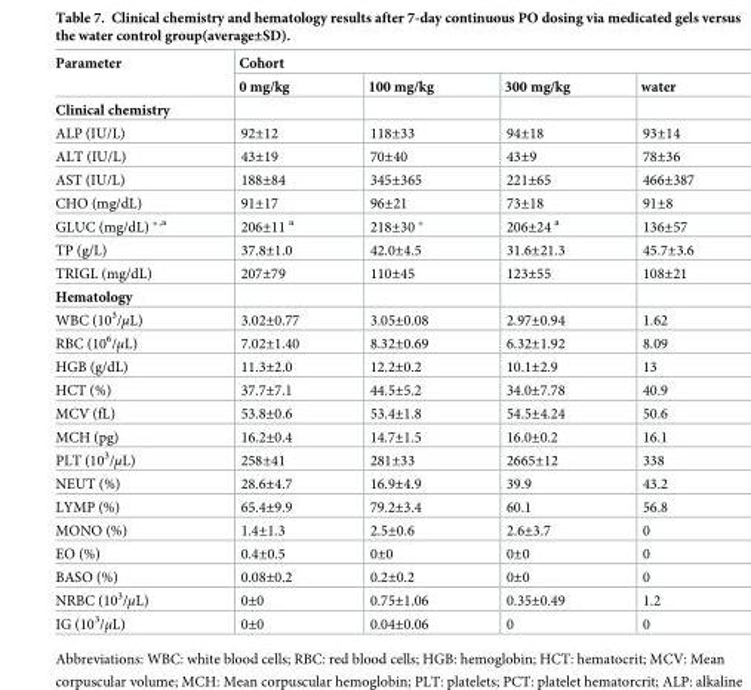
<table><thead><tr><td rowspan="2">Parameter</td><td colspan="4">Cohort</td></tr><tr><td>0 mg/kg</td><td>100 mg/kg</td><td>300 mg/kg</td><td>water</td></tr></thead><tbody><tr><td colspan="5">Clinical chemistry</td></tr><tr><td>ALP (IU/L)</td><td>92±12</td><td>118±33</td><td>94±18</td><td>93±14</td></tr><tr><td>ALT (IU/L)</td><td>43±19</td><td>70±40</td><td>43±9</td><td>78±36</td></tr><tr><td>AST (IU/L)</td><td>188±84</td><td>345±365</td><td>221±65</td><td>466±387</td></tr><tr><td>CHO (mg/dL)</td><td>91±17</td><td>96±21</td><td>73±18</td><td>91±8</td></tr><tr><td>GLUC (mg/dL) *<sup>,a</sup></td><td>206±11 <sup>a</sup></td><td>218±30 *</td><td>206±24 <sup>a</sup></td><td>136±57</td></tr><tr><td>TP (g/L)</td><td>37.8±1.0</td><td>42.0±4.5</td><td>31.6±21.3</td><td>45.7±3.6</td></tr><tr><td>TRIGL (mg/dL)</td><td>207±79</td><td>110±45</td><td>123±55</td><td>108±21</td></tr><tr><td colspan="5">Hematology</td></tr><tr><td>WBC (10<sup>3</sup>/μL)</td><td>3.02±0.77</td><td>3.05±0.08</td><td>2.97±0.94</td><td>1.62</td></tr><tr><td>RBC (10<sup>6</sup>/μL)</td><td>7.02±1.40</td><td>8.32±0.69</td><td>6.32±1.92</td><td>8.09</td></tr><tr><td>HGB (g/dL)</td><td>11.3±2.0</td><td>12.2±0.2</td><td>10.1±2.9</td><td>13</td></tr><tr><td>HCT (%)</td><td>37.7±7.1</td><td>44.5±5.2</td><td>34.0±7.78</td><td>40.9</td></tr><tr><td>MCV (fL)</td><td>53.8±0.6</td><td>53.4±1.8</td><td>54.5±4.24</td><td>50.6</td></tr><tr><td>MCH (pg)</td><td>16.2±0.4</td><td>14.7±1.5</td><td>16.0±0.2</td><td>16.1</td></tr><tr><td>PLT (10<sup>3</sup>/μL)</td><td>258±41</td><td>281±33</td><td>2665±12</td><td>338</td></tr><tr><td>NEUT (%)</td><td>28.6±4.7</td><td>16.9±4.9</td><td>39.9</td><td>43.2</td></tr><tr><td>LYMP (%)</td><td>65.4±9.9</td><td>79.2±3.4</td><td>60.1</td><td>56.8</td></tr><tr><td>MONO (%)</td><td>1.4±1.3</td><td>2.5±0.6</td><td>2.6±3.7</td><td>0</td></tr><tr><td>EO (%)</td><td>0.4±0.5</td><td>0±0</td><td>0±0</td><td>0</td></tr><tr><td>BASO (%)</td><td>0.08±0.2</td><td>0.2±0.2</td><td>0±0</td><td>0</td></tr><tr><td>NRBC (10<sup>3</sup>/μL)</td><td>0±0</td><td>0.75±1.06</td><td>0.35±0.49</td><td>1.2</td></tr><tr><td>IG (10<sup>3</sup>/μL)</td><td>0±0</td><td>0.04±0.06</td><td>0</td><td>0</td></tr></tbody></table>